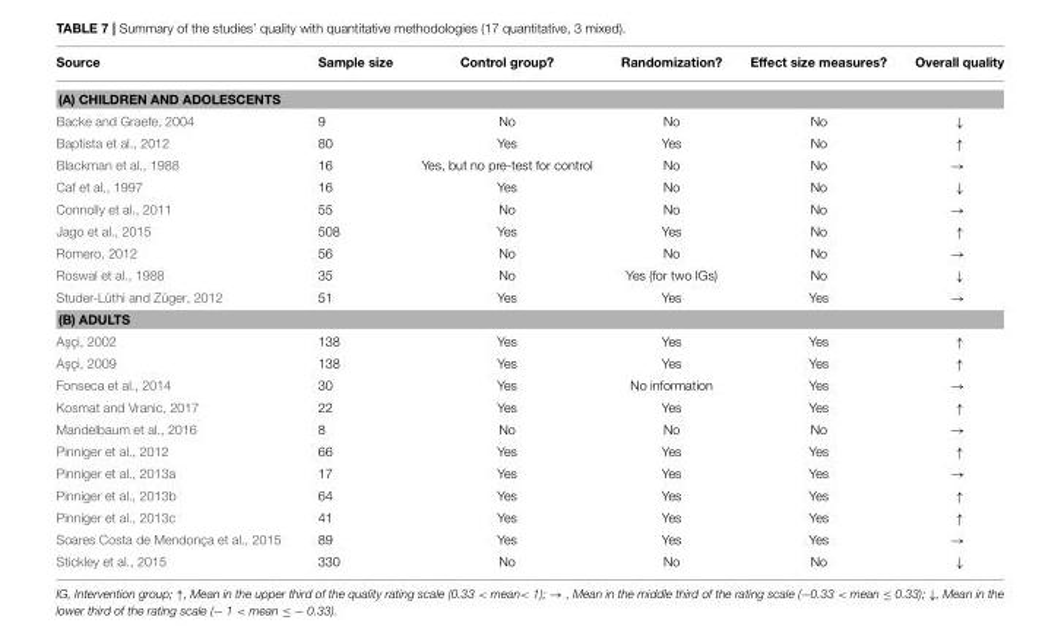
<table><thead><tr><td>Source</td><td>Sample size</td><td>Control group?</td><td>Randomization?</td><td>Effect size measures?</td><td>Overall quality</td></tr></thead><tbody><tr><td colspan="6">(A) CHILDREN AND ADOLESCENTS</td></tr><tr><td>Backe and Graefe, 2004</td><td>9</td><td>No</td><td>No</td><td>No</td><td>↓</td></tr><tr><td>Baptista et al., 2012</td><td>80</td><td>Yes</td><td>Yes</td><td>No</td><td>↑</td></tr><tr><td>Blackman et al., 1988</td><td>16</td><td>Yes, but no pre-test for control</td><td>No</td><td>No</td><td>→</td></tr><tr><td>Caf et al., 1997</td><td>16</td><td>Yes</td><td>No</td><td>No</td><td>↓</td></tr><tr><td>Connolly et al., 2011</td><td>55</td><td>No</td><td>No</td><td>No</td><td>→</td></tr><tr><td>Jago et al., 2015</td><td>508</td><td>Yes</td><td>Yes</td><td>No</td><td>↑</td></tr><tr><td>Romero, 2012</td><td>56</td><td>No</td><td>No</td><td>No</td><td>→</td></tr><tr><td>Roswal et al., 1988</td><td>35</td><td>No</td><td>Yes (for two IGs)</td><td>No</td><td>↓</td></tr><tr><td>Studer-Lüthi and Züger, 2012</td><td>51</td><td>Yes</td><td>Yes</td><td>Yes</td><td>→</td></tr><tr><td colspan="6">(B) ADULTS</td></tr><tr><td>A¸sçi, 2002</td><td>138</td><td>Yes</td><td>Yes</td><td>Yes</td><td>↑</td></tr><tr><td>A¸sçi, 2009</td><td>138</td><td>Yes</td><td>Yes</td><td>Yes</td><td>↑</td></tr><tr><td>Fonseca et al., 2014</td><td>30</td><td>Yes</td><td>No information</td><td>Yes</td><td>→</td></tr><tr><td>Kosmat and Vranic, 2017</td><td>22</td><td>Yes</td><td>Yes</td><td>Yes</td><td>↑</td></tr><tr><td>Mandelbaum et al., 2016</td><td>8</td><td>No</td><td>No</td><td>No</td><td>→</td></tr><tr><td>Pinniger et al., 2012</td><td>66</td><td>Yes</td><td>Yes</td><td>Yes</td><td>↑</td></tr><tr><td>Pinniger et al., 2013a</td><td>17</td><td>Yes</td><td>Yes</td><td>Yes</td><td>→</td></tr><tr><td>Pinniger et al., 2013b</td><td>64</td><td>Yes</td><td>Yes</td><td>Yes</td><td>↑</td></tr><tr><td>Pinniger et al., 2013c</td><td>41</td><td>Yes</td><td>Yes</td><td>Yes</td><td>↑</td></tr><tr><td>Soares Costa de Mendonça et al., 2015</td><td>89</td><td>Yes</td><td>Yes</td><td>Yes</td><td>→</td></tr><tr><td>Stickley et al., 2015</td><td>330</td><td>No</td><td>No</td><td>No</td><td>↓</td></tr></tbody></table>